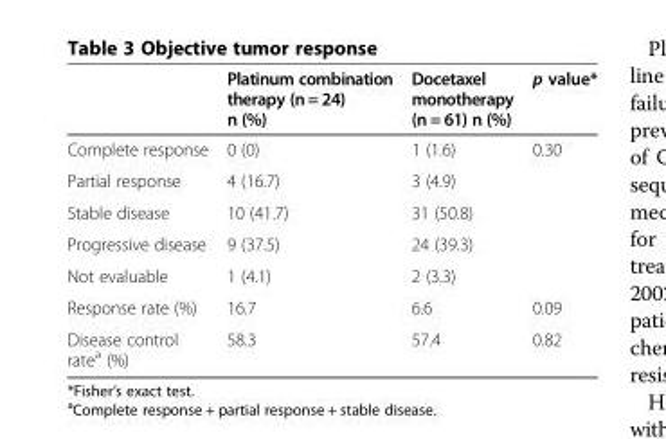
<table><thead><tr><td></td><td>Platinum combination therapy (n = 24) n (%)</td><td>Docetaxel monotherapy (n = 61) n (%)</td><td>p value*</td></tr></thead><tbody><tr><td>Complete response</td><td>0 (0)</td><td>1 (1.6)</td><td>0.30</td></tr><tr><td>Partial response</td><td>4 (16.7)</td><td>3 (4.9)</td><td></td></tr><tr><td>Stable disease</td><td>10 (41.7)</td><td>31 (50.8)</td><td></td></tr><tr><td>Progressive disease</td><td>9 (37.5)</td><td>24 (39.3)</td><td></td></tr><tr><td>Not evaluable</td><td>1 (4.1)</td><td>2 (3.3)</td><td></td></tr><tr><td>Response rate (%)</td><td>16.7</td><td>6.6</td><td>0.09</td></tr><tr><td>Disease control rate<sup>a</sup> (%)</td><td>58.3</td><td>57.4</td><td>0.82</td></tr></tbody></table>